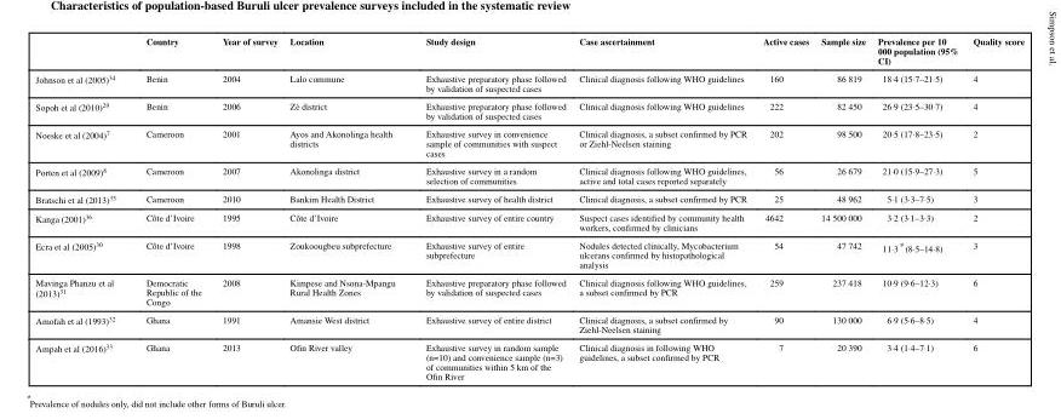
<table><thead><tr><td></td><td>Country</td><td>Year of survey</td><td>Location</td><td>Study design</td><td>Case ascertainment</td><td>Active cases</td><td>Sample size</td><td>Prevalence per 10 000 population (95% CI)</td><td>Quality score</td></tr></thead><tbody><tr><td>Johnson et al (2005)<sup>34</sup></td><td>Benin</td><td>2004</td><td>Lalo commune</td><td>Exhaustive preparatory phase followed by validation of suspected cases</td><td>Clinical diagnosis following WHO guidelines</td><td>160</td><td>86 819</td><td>18·4 (15·7–21·5)</td><td>4</td></tr><tr><td>Sopoh et al (2010)<sup>29</sup></td><td>Benin</td><td>2006</td><td>Zè district</td><td>Exhaustive preparatory phase followed by validation of suspected cases</td><td>Clinical diagnosis following WHO guidelines</td><td>222</td><td>82 450</td><td>26·9 (23·5–30·7)</td><td>4</td></tr><tr><td>Noeske et al (2004)<sup>7</sup></td><td>Cameroon</td><td>2001</td><td>Ayos and Akonolinga health districts</td><td>Exhaustive survey in convenience sample of communities with suspect cases</td><td>Clinical diagnosis, a subset confirmed by PCR or Ziehl-Neelsen staining</td><td>202</td><td>98 500</td><td>20·5 (17·8–23·5)</td><td>2</td></tr><tr><td>Porten et al (2009)<sup>8</sup></td><td>Cameroon</td><td>2007</td><td>Akonolinga district</td><td>Exhaustive survey in a random selection of communities</td><td>Clinical diagnosis following WHO guidelines, active and total cases reported separately</td><td>56</td><td>26 679</td><td>21·0 (15·9–27·3)</td><td>5</td></tr><tr><td>Bratschi et al (2013)<sup>35</sup></td><td>Cameroon</td><td>2010</td><td>Bankim Health District</td><td>Exhaustive survey of health district</td><td>Clinical diagnosis, a subset confirmed by PCR</td><td>25</td><td>48 962</td><td>5·1 (3·3–7·5)</td><td>3</td></tr><tr><td>Kanga (2001)<sup>36</sup></td><td>Côte d’Ivoire</td><td>1995</td><td>Côte d’Ivoire</td><td>Exhaustive survey of entire country</td><td>Suspect cases identified by community health workers, confirmed by clinicians</td><td>4642</td><td>14 500 000</td><td>3·2 (3·1–3·3)</td><td>2</td></tr><tr><td>Ecra et al (2005)<sup>30</sup></td><td>Côte d’Ivoire</td><td>1998</td><td>Zoukoougbeu subprefecture</td><td>Exhaustive survey of entire subprefecture</td><td>Nodules detected clinically, Mycobacterium ulcerans confirmed by histopathological analysis</td><td>54</td><td>47 742</td><td>11·3* (8·5–14·8)</td><td>3</td></tr><tr><td>Mavinga Phanzu et al (2013)<sup>31</sup></td><td>Democratic Republic of the Congo</td><td>2008</td><td>Kimpese and Nsona-Mpangu Rural Health Zones</td><td>Exhaustive preparatory phase followed by validation of suspected cases</td><td>Clinical diagnosis following WHO guidelines, a subset confirmed by PCR</td><td>259</td><td>237 418</td><td>10·9 (9·6–12·3)</td><td>6</td></tr><tr><td>Amofah et al (1993)<sup>32</sup></td><td>Ghana</td><td>1991</td><td>Amansie West district</td><td>Exhaustive survey of entire district</td><td>Clinical diagnosis, a subset confirmed by Ziehl-Neelsen staining</td><td>90</td><td>130 000</td><td>6·9 (5·6–8·5)</td><td>4</td></tr><tr><td>Ampah et al (2016)<sup>33</sup></td><td>Ghana</td><td>2013</td><td>Ofin River valley</td><td>Exhaustive survey in random sample (n=10) and convenience sample (n=3) of communities within 5 km of the Ofin River</td><td>Clinical diagnosis in following WHO guidelines, a subset confirmed by PCR</td><td>7</td><td>20 390</td><td>3·4 (1·4–7·1)</td><td>6</td></tr></tbody></table>